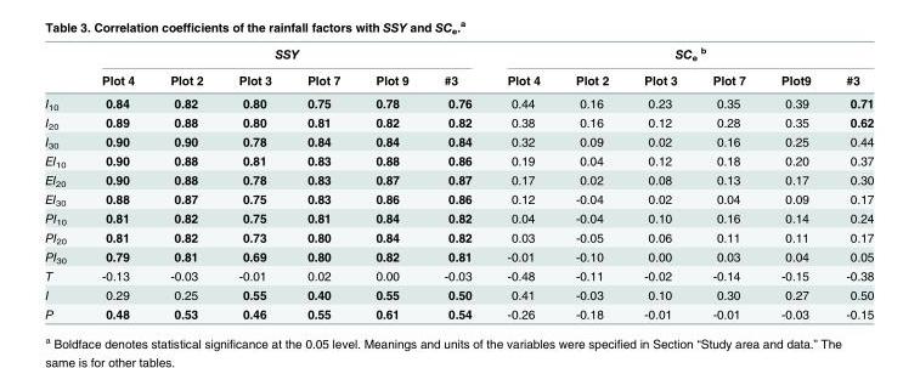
<table><thead><tr><td rowspan="2"></td><td colspan="6">SSY</td><td colspan="6">SC<sub>e</sub> <sup>b</sup></td></tr><tr><td>Plot 4</td><td>Plot 2</td><td>Plot 3</td><td>Plot 7</td><td>Plot 9</td><td>#3</td><td>Plot 4</td><td>Plot 2</td><td>Plot 3</td><td>Plot 7</td><td>Plot9</td><td>#3</td></tr></thead><tbody><tr><td>I<sub>10</sub></td><td>0.84</td><td>0.82</td><td>0.80</td><td>0.75</td><td>0.78</td><td>0.76</td><td>0.44</td><td>0.16</td><td>0.23</td><td>0.35</td><td>0.39</td><td>0.71</td></tr><tr><td>I<sub>20</sub></td><td>0.89</td><td>0.88</td><td>0.80</td><td>0.81</td><td>0.82</td><td>0.82</td><td>0.38</td><td>0.16</td><td>0.12</td><td>0.28</td><td>0.35</td><td>0.62</td></tr><tr><td>I<sub>30</sub></td><td>0.90</td><td>0.90</td><td>0.78</td><td>0.84</td><td>0.84</td><td>0.84</td><td>0.32</td><td>0.09</td><td>0.02</td><td>0.16</td><td>0.25</td><td>0.44</td></tr><tr><td>EI<sub>10</sub></td><td>0.90</td><td>0.88</td><td>0.81</td><td>0.83</td><td>0.88</td><td>0.86</td><td>0.19</td><td>0.04</td><td>0.12</td><td>0.18</td><td>0.20</td><td>0.37</td></tr><tr><td>EI<sub>20</sub></td><td>0.90</td><td>0.88</td><td>0.78</td><td>0.83</td><td>0.87</td><td>0.87</td><td>0.17</td><td>0.02</td><td>0.08</td><td>0.13</td><td>0.17</td><td>0.30</td></tr><tr><td>EI<sub>30</sub></td><td>0.88</td><td>0.87</td><td>0.75</td><td>0.83</td><td>0.86</td><td>0.86</td><td>0.12</td><td>-0.04</td><td>0.02</td><td>0.04</td><td>0.09</td><td>0.17</td></tr><tr><td>PI<sub>10</sub></td><td>0.81</td><td>0.82</td><td>0.75</td><td>0.81</td><td>0.84</td><td>0.82</td><td>0.04</td><td>-0.04</td><td>0.10</td><td>0.16</td><td>0.14</td><td>0.24</td></tr><tr><td>PI<sub>20</sub></td><td>0.81</td><td>0.82</td><td>0.73</td><td>0.80</td><td>0.84</td><td>0.82</td><td>0.03</td><td>-0.05</td><td>0.06</td><td>0.11</td><td>0.11</td><td>0.17</td></tr><tr><td>PI<sub>30</sub></td><td>0.79</td><td>0.81</td><td>0.69</td><td>0.80</td><td>0.82</td><td>0.81</td><td>-0.01</td><td>-0.10</td><td>0.00</td><td>0.03</td><td>0.04</td><td>0.05</td></tr><tr><td>T</td><td>-0.13</td><td>-0.03</td><td>-0.01</td><td>0.02</td><td>0.00</td><td>-0.03</td><td>-0.48</td><td>-0.11</td><td>-0.02</td><td>-0.14</td><td>-0.15</td><td>-0.38</td></tr><tr><td>I</td><td>0.29</td><td>0.25</td><td>0.55</td><td>0.40</td><td>0.55</td><td>0.50</td><td>0.41</td><td>-0.03</td><td>0.10</td><td>0.30</td><td>0.27</td><td>0.50</td></tr><tr><td>P</td><td>0.48</td><td>0.53</td><td>0.46</td><td>0.55</td><td>0.61</td><td>0.54</td><td>-0.26</td><td>-0.18</td><td>-0.01</td><td>-0.01</td><td>-0.03</td><td>-0.15</td></tr></tbody></table>